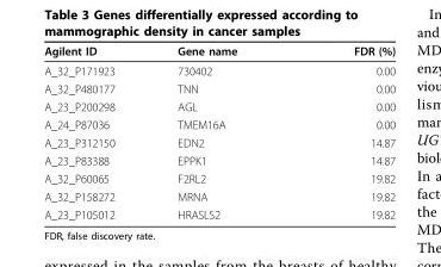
<table><thead><tr><td>Agilent ID</td><td>Gene name</td><td>FDR (%)</td></tr></thead><tbody><tr><td>A_32_P171923</td><td>730402</td><td>0.00</td></tr><tr><td>A_32_P480177</td><td>TNN</td><td>0.00</td></tr><tr><td>A_23_P200298</td><td>AGL</td><td>0.00</td></tr><tr><td>A_24_P87036</td><td>TMEM16A</td><td>0.00</td></tr><tr><td>A_23_P312150</td><td>EDN2</td><td>14.87</td></tr><tr><td>A_23_P83388</td><td>EPPK1</td><td>14.87</td></tr><tr><td>A_32_P60065</td><td>F2RL2</td><td>19.82</td></tr><tr><td>A_32_P158272</td><td>MRNA</td><td>19.82</td></tr><tr><td>A_23_P105012</td><td>HRASLS2</td><td>19.82</td></tr></tbody></table>